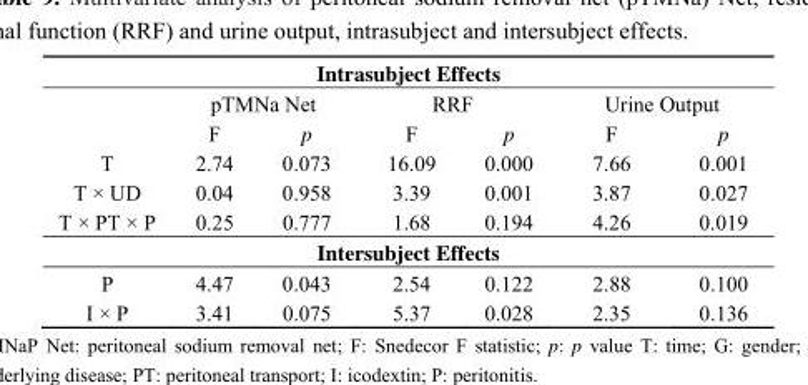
<table><tbody><tr><td colspan="7">Intrasubject Effects</td></tr><tr><td></td><td colspan="2">pTMNa Net</td><td colspan="2">RRF</td><td colspan="2">Urine Output</td></tr><tr><td></td><td>F</td><td>p</td><td>F</td><td>p</td><td>F</td><td>p</td></tr><tr><td>T</td><td>2.74</td><td>0.073</td><td>16.09</td><td>0.000</td><td>7.66</td><td>0.001</td></tr><tr><td>T × UD</td><td>0.04</td><td>0.958</td><td>3.39</td><td>0.001</td><td>3.87</td><td>0.027</td></tr><tr><td>T × PT × P</td><td>0.25</td><td>0.777</td><td>1.68</td><td>0.194</td><td>4.26</td><td>0.019</td></tr><tr><td colspan="7">Intersubject Effects</td></tr><tr><td>P</td><td>4.47</td><td>0.043</td><td>2.54</td><td>0.122</td><td>2.88</td><td>0.100</td></tr><tr><td>I × P</td><td>3.41</td><td>0.075</td><td>5.37</td><td>0.028</td><td>2.35</td><td>0.136</td></tr></tbody></table>